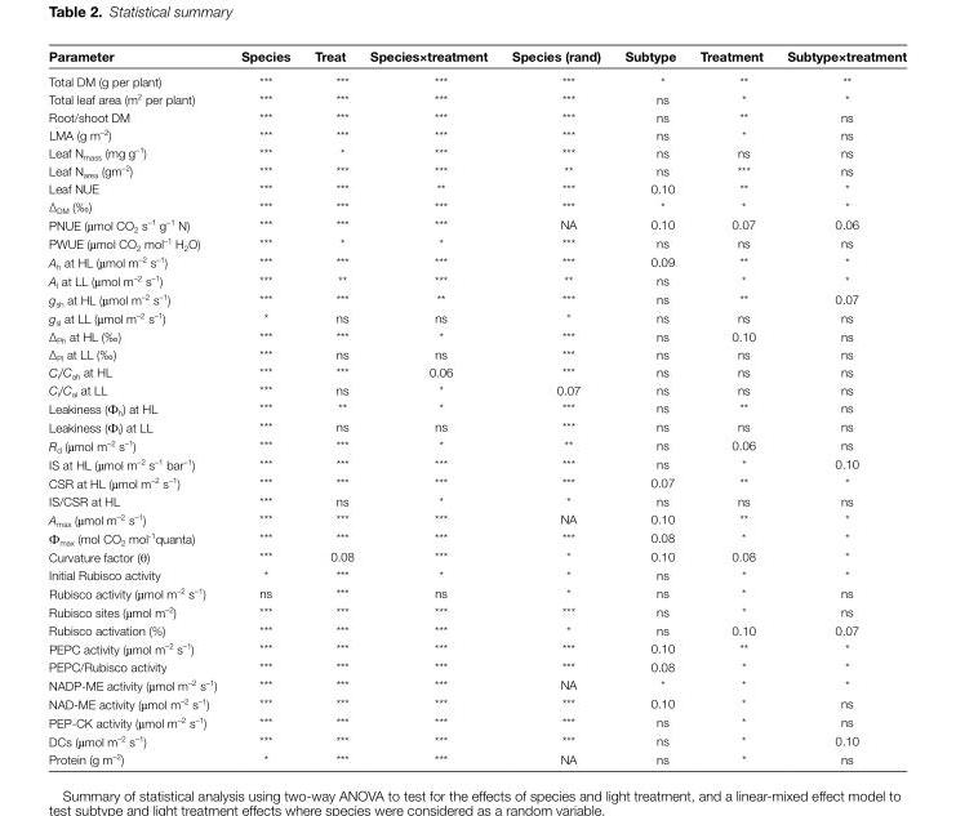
<table><thead><tr><td>Parameter</td><td>Species</td><td>Treat</td><td>Species×treatment</td><td>Species (rand)</td><td>Subtype</td><td>Treatment</td><td>Subtype×treatment</td></tr></thead><tbody><tr><td>Total DM (g per plant)</td><td>***</td><td>***</td><td>***</td><td>***</td><td>*</td><td>**</td><td>**</td></tr><tr><td>Total leaf area (m<sup>2</sup> per plant)</td><td>***</td><td>***</td><td>***</td><td>***</td><td>ns</td><td>*</td><td>*</td></tr><tr><td>Root/shoot DM</td><td>***</td><td>***</td><td>***</td><td>***</td><td>ns</td><td>**</td><td>ns</td></tr><tr><td>LMA (g m<sup>–2</sup>)</td><td>***</td><td>***</td><td>***</td><td>***</td><td>ns</td><td>*</td><td>ns</td></tr><tr><td>Leaf N<sub>mass</sub> (mg g<sup>–1</sup>)</td><td>***</td><td>*</td><td>***</td><td>***</td><td>ns</td><td>ns</td><td>ns</td></tr><tr><td>Leaf N<sub>area</sub> (gm<sup>–2</sup>)</td><td>***</td><td>***</td><td>***</td><td>**</td><td>ns</td><td>***</td><td>ns</td></tr><tr><td>Leaf NUE</td><td>***</td><td>***</td><td>**</td><td>***</td><td>0.10</td><td>**</td><td>*</td></tr><tr><td>∆<sub>DM</sub> (‰)</td><td>***</td><td>***</td><td>***</td><td>***</td><td>*</td><td>*</td><td>*</td></tr><tr><td>PNUE (µmol CO<sub>2</sub> s<sup>–1</sup> g<sup>–1</sup> N)</td><td>***</td><td>***</td><td>***</td><td>NA</td><td>0.10</td><td>0.07</td><td>0.06</td></tr><tr><td>PWUE (µmol CO<sub>2</sub> mol<sup>–1</sup> H<sub>2</sub>O)</td><td>***</td><td>*</td><td>*</td><td>***</td><td>ns</td><td>ns</td><td>ns</td></tr><tr><td>A<sub>h</sub> at HL (µmol m<sup>–2</sup> s<sup>–1</sup>)</td><td>***</td><td>***</td><td>***</td><td>***</td><td>0.09</td><td>**</td><td>*</td></tr><tr><td>A<sub>l</sub> at LL (µmol m<sup>–2</sup> s<sup>–1</sup>)</td><td>***</td><td>**</td><td>***</td><td>**</td><td>ns</td><td>*</td><td>*</td></tr><tr><td>g<sub>sh</sub> at HL (µmol m<sup>–2</sup> s<sup>–1</sup>)</td><td>***</td><td>***</td><td>**</td><td>***</td><td>ns</td><td>**</td><td>0.07</td></tr><tr><td>g<sub>sl</sub> at LL (µmol m<sup>–2</sup> s<sup>–1</sup>)</td><td>*</td><td>ns</td><td>ns</td><td>*</td><td>ns</td><td>ns</td><td>ns</td></tr><tr><td>∆<sub>Ph</sub> at HL (‰)</td><td>***</td><td>***</td><td>*</td><td>***</td><td>ns</td><td>0.10</td><td>ns</td></tr><tr><td>∆<sub>Pl</sub> at LL (‰)</td><td>***</td><td>ns</td><td>ns</td><td>***</td><td>ns</td><td>ns</td><td>ns</td></tr><tr><td>C<sub>i</sub>/C<sub>ah</sub> at HL</td><td>***</td><td>***</td><td>0.06</td><td>***</td><td>ns</td><td>ns</td><td>ns</td></tr><tr><td>C<sub>i</sub>/C<sub>al</sub> at LL</td><td>***</td><td>ns</td><td>*</td><td>0.07</td><td>ns</td><td>ns</td><td>ns</td></tr><tr><td>Leakiness (Ф<sub>h</sub>) at HL</td><td>***</td><td>**</td><td>*</td><td>***</td><td>ns</td><td>**</td><td>ns</td></tr><tr><td>Leakiness (Ф<sub>l</sub>) at LL</td><td>***</td><td>ns</td><td>ns</td><td>***</td><td>ns</td><td>ns</td><td>ns</td></tr><tr><td>R<sub>d</sub> (µmol m<sup>–2</sup> s<sup>–1</sup>)</td><td>***</td><td>***</td><td>*</td><td>**</td><td>ns</td><td>0.06</td><td>ns</td></tr><tr><td>IS at HL (µmol m<sup>–2</sup> s<sup>–1</sup> bar<sup>–1</sup>)</td><td>***</td><td>***</td><td>***</td><td>***</td><td>ns</td><td>*</td><td>0.10</td></tr><tr><td>CSR at HL (µmol m<sup>–2</sup> s<sup>–1</sup>)</td><td>***</td><td>***</td><td>***</td><td>***</td><td>0.07</td><td>**</td><td>*</td></tr><tr><td>IS/CSR at HL</td><td>***</td><td>ns</td><td>*</td><td>*</td><td>ns</td><td>ns</td><td>ns</td></tr><tr><td>A<sub>max</sub> (µmol m<sup>–2</sup> s<sup>–1</sup>)</td><td>***</td><td>***</td><td>***</td><td>NA</td><td>0.10</td><td>**</td><td>*</td></tr><tr><td>Фmax (mol CO2 mol-1quanta)</td><td>***</td><td>***</td><td>***</td><td>***</td><td>0.08</td><td>*</td><td>*</td></tr><tr><td>Curvature factor (θ)</td><td>***</td><td>0.08</td><td>***</td><td>*</td><td>0.10</td><td>0.08</td><td>*</td></tr><tr><td>Initial Rubisco activity</td><td>*</td><td>***</td><td>*</td><td>*</td><td>ns</td><td>*</td><td>*</td></tr><tr><td>Rubisco activity (µmol m<sup>–2</sup> s<sup>–1</sup>)</td><td>ns</td><td>***</td><td>ns</td><td>*</td><td>ns</td><td>*</td><td>ns</td></tr><tr><td>Rubisco sites (µmol m<sup>–2</sup>)</td><td>***</td><td>***</td><td>***</td><td>***</td><td>ns</td><td>*</td><td>ns</td></tr><tr><td>Rubisco activation (%)</td><td>***</td><td>***</td><td>***</td><td>*</td><td>ns</td><td>0.10</td><td>0.07</td></tr><tr><td>PEPC activity (µmol m<sup>–2</sup> s<sup>–1</sup>)</td><td>***</td><td>***</td><td>***</td><td>***</td><td>0.10</td><td>**</td><td>*</td></tr><tr><td>PEPC/Rubisco activity</td><td>***</td><td>***</td><td>***</td><td>***</td><td>0.08</td><td>*</td><td>*</td></tr><tr><td>NADP-ME activity (µmol m<sup>–2</sup> s<sup>–1</sup>)</td><td>***</td><td>***</td><td>***</td><td>NA</td><td>*</td><td>*</td><td>*</td></tr><tr><td>NAD-ME activity (µmol m<sup>–2</sup> s<sup>–1</sup>)</td><td>***</td><td>***</td><td>***</td><td>***</td><td>0.10</td><td>*</td><td>ns</td></tr><tr><td>PEP-CK activity (µmol m<sup>–2</sup> s<sup>–1</sup>)</td><td>***</td><td>***</td><td>***</td><td>***</td><td>ns</td><td>*</td><td>ns</td></tr><tr><td>DCs (µmol m<sup>–2</sup> s<sup>–1</sup>)</td><td>***</td><td>***</td><td>***</td><td>***</td><td>ns</td><td>*</td><td>0.10</td></tr><tr><td>Protein (g m<sup>–2</sup>)</td><td>*</td><td>***</td><td>***</td><td>NA</td><td>ns</td><td>*</td><td>ns</td></tr></tbody></table>